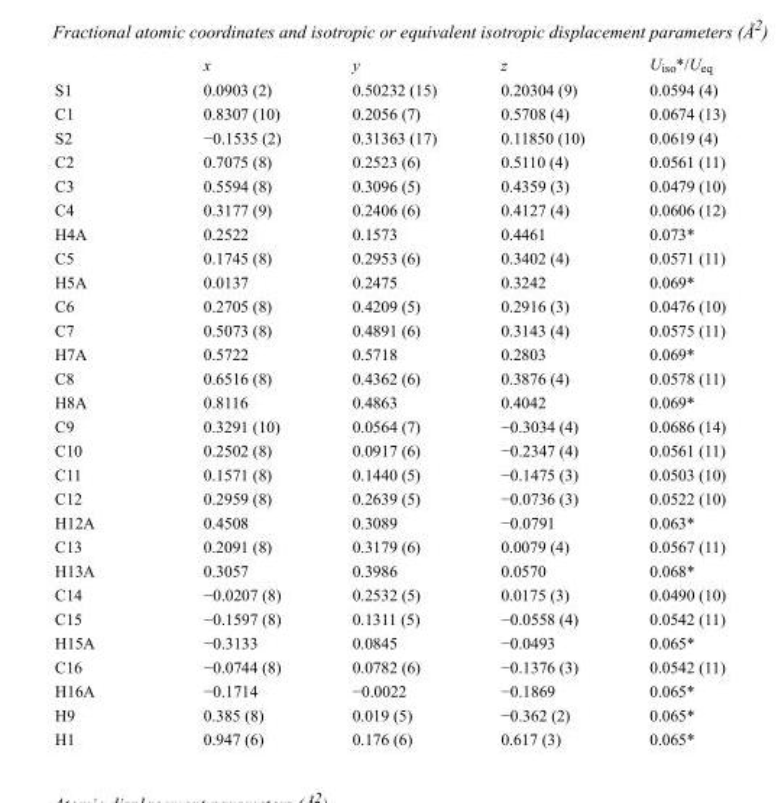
<table><thead><tr><td></td><td>x</td><td>y</td><td>z</td><td>U<sub>iso</sub>*/U<sub>eq</sub></td></tr></thead><tbody><tr><td>S1</td><td>0.0903 (2)</td><td>0.50232 (15)</td><td>0.20304 (9)</td><td>0.0594 (4)</td></tr><tr><td>C1</td><td>0.8307 (10)</td><td>0.2056 (7)</td><td>0.5708 (4)</td><td>0.0674 (13)</td></tr><tr><td>S2</td><td>−0.1535 (2)</td><td>0.31363 (17)</td><td>0.11850 (10)</td><td>0.0619 (4)</td></tr><tr><td>C2</td><td>0.7075 (8)</td><td>0.2523 (6)</td><td>0.5110 (4)</td><td>0.0561 (11)</td></tr><tr><td>C3</td><td>0.5594 (8)</td><td>0.3096 (5)</td><td>0.4359 (3)</td><td>0.0479 (10)</td></tr><tr><td>C4</td><td>0.3177 (9)</td><td>0.2406 (6)</td><td>0.4127 (4)</td><td>0.0606 (12)</td></tr><tr><td>H4A</td><td>0.2522</td><td>0.1573</td><td>0.4461</td><td>0.073*</td></tr><tr><td>C5</td><td>0.1745 (8)</td><td>0.2953 (6)</td><td>0.3402 (4)</td><td>0.0571 (11)</td></tr><tr><td>H5A</td><td>0.0137</td><td>0.2475</td><td>0.3242</td><td>0.069*</td></tr><tr><td>C6</td><td>0.2705 (8)</td><td>0.4209 (5)</td><td>0.2916 (3)</td><td>0.0476 (10)</td></tr><tr><td>C7</td><td>0.5073 (8)</td><td>0.4891 (6)</td><td>0.3143 (4)</td><td>0.0575 (11)</td></tr><tr><td>H7A</td><td>0.5722</td><td>0.5718</td><td>0.2803</td><td>0.069*</td></tr><tr><td>C8</td><td>0.6516 (8)</td><td>0.4362 (6)</td><td>0.3876 (4)</td><td>0.0578 (11)</td></tr><tr><td>H8A</td><td>0.8116</td><td>0.4863</td><td>0.4042</td><td>0.069*</td></tr><tr><td>C9</td><td>0.3291 (10)</td><td>0.0564 (7)</td><td>−0.3034 (4)</td><td>0.0686 (14)</td></tr><tr><td>C10</td><td>0.2502 (8)</td><td>0.0917 (6)</td><td>−0.2347 (4)</td><td>0.0561 (11)</td></tr><tr><td>C11</td><td>0.1571 (8)</td><td>0.1440 (5)</td><td>−0.1475 (3)</td><td>0.0503 (10)</td></tr><tr><td>C12</td><td>0.2959 (8)</td><td>0.2639 (5)</td><td>−0.0736 (3)</td><td>0.0522 (10)</td></tr><tr><td>H12A</td><td>0.4508</td><td>0.3089</td><td>−0.0791</td><td>0.063*</td></tr><tr><td>C13</td><td>0.2091 (8)</td><td>0.3179 (6)</td><td>0.0079 (4)</td><td>0.0567 (11)</td></tr><tr><td>H13A</td><td>0.3057</td><td>0.3986</td><td>0.0570</td><td>0.068*</td></tr><tr><td>C14</td><td>−0.0207 (8)</td><td>0.2532 (5)</td><td>0.0175 (3)</td><td>0.0490 (10)</td></tr><tr><td>C15</td><td>−0.1597 (8)</td><td>0.1311 (5)</td><td>−0.0558 (4)</td><td>0.0542 (11)</td></tr><tr><td>H15A</td><td>−0.3133</td><td>0.0845</td><td>−0.0493</td><td>0.065*</td></tr><tr><td>C16</td><td>−0.0744 (8)</td><td>0.0782 (6)</td><td>−0.1376 (3)</td><td>0.0542 (11)</td></tr><tr><td>H16A</td><td>−0.1714</td><td>−0.0022</td><td>−0.1869</td><td>0.065*</td></tr><tr><td>H9</td><td>0.385 (8)</td><td>0.019 (5)</td><td>−0.362 (2)</td><td>0.065*</td></tr><tr><td>H1</td><td>0.947 (6)</td><td>0.176 (6)</td><td>0.617 (3)</td><td>0.065*</td></tr></tbody></table>